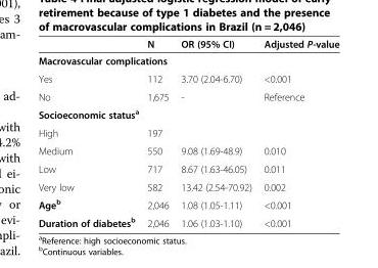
<table><thead><tr><td></td><td>N</td><td>OR (95% CI)</td><td>Adjusted P-value</td></tr></thead><tbody><tr><td colspan="4">Macrovascular complications</td></tr><tr><td>Yes</td><td>112</td><td>3.70 (2.04-6.70)</td><td>&lt;0.001</td></tr><tr><td>No</td><td>1,675</td><td>-</td><td>Reference</td></tr><tr><td colspan="4">Socioeconomic status<sup>a</sup></td></tr><tr><td>High</td><td>197</td><td></td><td></td></tr><tr><td>Medium</td><td>550</td><td>9.08 (1.69-48.9)</td><td>0.010</td></tr><tr><td>Low</td><td>717</td><td>8.67 (1.63-46.05)</td><td>0.011</td></tr><tr><td>Very low</td><td>582</td><td>13.42 (2.54-70.92)</td><td>0.002</td></tr><tr><td>Age<sup>b</sup></td><td>2,046</td><td>1.08 (1.05-1.11)</td><td>&lt;0.001</td></tr><tr><td>Duration of diabetes<sup>b</sup></td><td>2,046</td><td>1.06 (1.03-1.10)</td><td>&lt;0.001</td></tr></tbody></table>